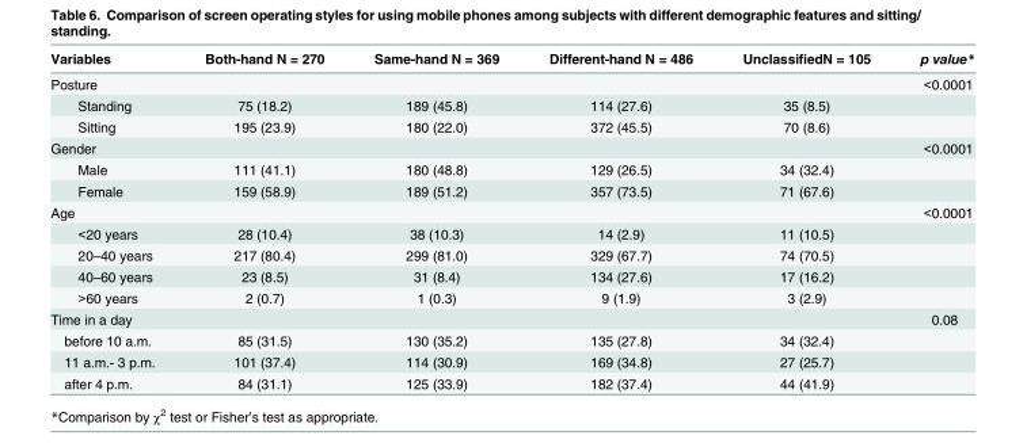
<table><thead><tr><td>Variables</td><td>Both-hand N = 270</td><td>Same-hand N = 369</td><td>Different-hand N = 486</td><td>UnclassifiedN = 105</td><td>p value*</td></tr></thead><tbody><tr><td>Posture</td><td></td><td></td><td></td><td></td><td>&lt;0.0001</td></tr><tr><td>Standing</td><td>75 (18.2)</td><td>189 (45.8)</td><td>114 (27.6)</td><td>35 (8.5)</td><td></td></tr><tr><td>Sitting</td><td>195 (23.9)</td><td>180 (22.0)</td><td>372 (45.5)</td><td>70 (8.6)</td><td></td></tr><tr><td>Gender</td><td></td><td></td><td></td><td></td><td>&lt;0.0001</td></tr><tr><td>Male</td><td>111 (41.1)</td><td>180 (48.8)</td><td>129 (26.5)</td><td>34 (32.4)</td><td></td></tr><tr><td>Female</td><td>159 (58.9)</td><td>189 (51.2)</td><td>357 (73.5)</td><td>71 (67.6)</td><td></td></tr><tr><td>Age</td><td></td><td></td><td></td><td></td><td>&lt;0.0001</td></tr><tr><td>&lt;20 years</td><td>28 (10.4)</td><td>38 (10.3)</td><td>14 (2.9)</td><td>11 (10.5)</td><td></td></tr><tr><td>20–40 years</td><td>217 (80.4)</td><td>299 (81.0)</td><td>329 (67.7)</td><td>74 (70.5)</td><td></td></tr><tr><td>40–60 years</td><td>23 (8.5)</td><td>31 (8.4)</td><td>134 (27.6)</td><td>17 (16.2)</td><td></td></tr><tr><td>&gt;60 years</td><td>2 (0.7)</td><td>1 (0.3)</td><td>9 (1.9)</td><td>3 (2.9)</td><td></td></tr><tr><td>Time in a day</td><td></td><td></td><td></td><td></td><td>0.08</td></tr><tr><td>before 10 a.m.</td><td>85 (31.5)</td><td>130 (35.2)</td><td>135 (27.8)</td><td>34 (32.4)</td><td></td></tr><tr><td>11 a.m.- 3 p.m.</td><td>101 (37.4)</td><td>114 (30.9)</td><td>169 (34.8)</td><td>27 (25.7)</td><td></td></tr><tr><td>after 4 p.m.</td><td>84 (31.1)</td><td>125 (33.9)</td><td>182 (37.4)</td><td>44 (41.9)</td><td></td></tr></tbody></table>